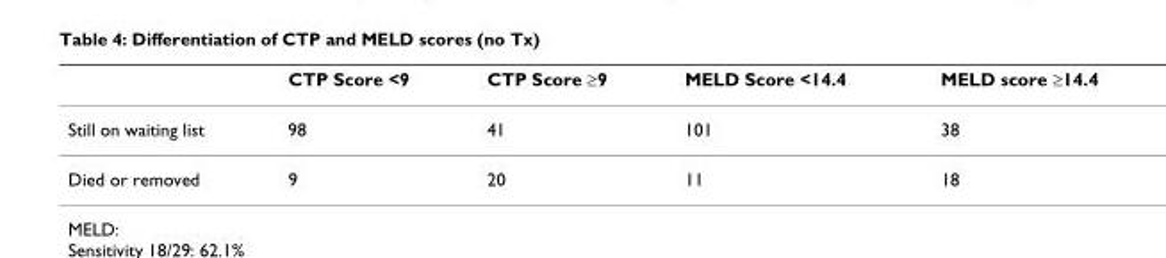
<table><thead><tr><td></td><td>CTP Score &lt;9</td><td>CTP Score ≥9</td><td>MELD Score &lt;14.4</td><td>MELD score ≥14.4</td></tr></thead><tbody><tr><td>Still on waiting list</td><td>98</td><td>41</td><td>101</td><td>38</td></tr><tr><td>Died or removed</td><td>9</td><td>20</td><td>11</td><td>18</td></tr></tbody></table>